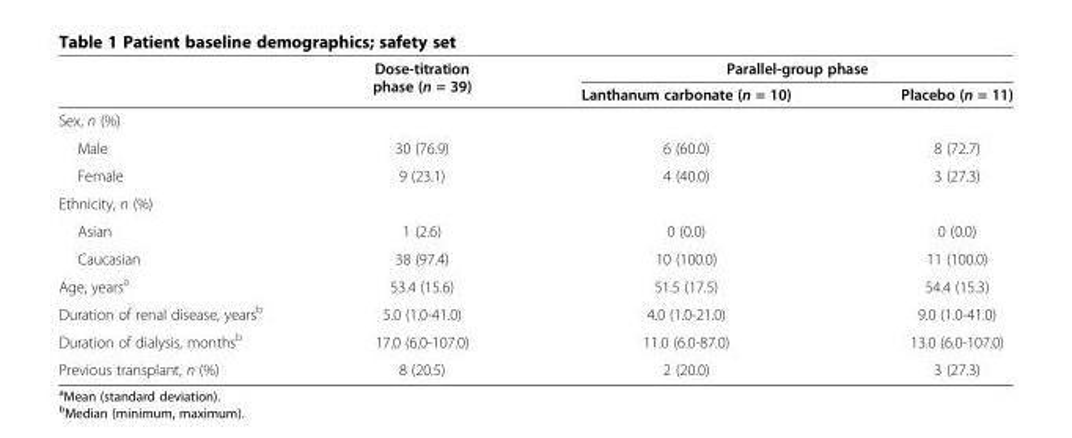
<table><thead><tr><td rowspan="2"></td><td rowspan="2">Dose-titration phase (n = 39)</td><td colspan="2">Parallel-group phase</td></tr><tr><td>Lanthanum carbonate (n = 10)</td><td>Placebo (n = 11)</td></tr></thead><tbody><tr><td colspan="4">Sex, n (%)</td></tr><tr><td>Male</td><td>30 (76.9)</td><td>6 (60.0)</td><td>8 (72.7)</td></tr><tr><td>Female</td><td>9 (23.1)</td><td>4 (40.0)</td><td>3 (27.3)</td></tr><tr><td colspan="4">Ethnicity, n (%)</td></tr><tr><td>Asian</td><td>1 (2.6)</td><td>0 (0.0)</td><td>0 (0.0)</td></tr><tr><td>Caucasian</td><td>38 (97.4)</td><td>10 (100.0)</td><td>11 (100.0)</td></tr><tr><td>Age, years<sup>a</sup></td><td>53.4 (15.6)</td><td>51.5 (17.5)</td><td>54.4 (15.3)</td></tr><tr><td>Duration of renal disease, years<sup>b</sup></td><td>5.0 (1.0-41.0)</td><td>4.0 (1.0-21.0)</td><td>9.0 (1.0-41.0)</td></tr><tr><td>Duration of dialysis, months<sup>b</sup></td><td>17.0 (6.0-107.0)</td><td>11.0 (6.0-87.0)</td><td>13.0 (6.0-107.0)</td></tr><tr><td>Previous transplant, n (%)</td><td>8 (20.5)</td><td>2 (20.0)</td><td>3 (27.3)</td></tr></tbody></table>